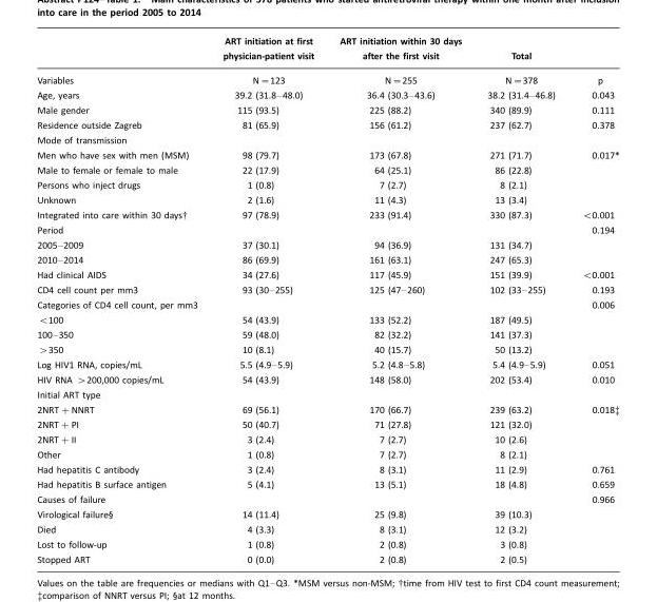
<table><thead><tr><td></td><td>ART initiation at first physician-patient visit</td><td>ART initiation within 30 days after the first visit</td><td>Total</td><td></td></tr></thead><tbody><tr><td>Variables</td><td>N=123</td><td>N=255</td><td>N=378</td><td>p</td></tr><tr><td>Age, years</td><td>39.2 (31.8–48.0)</td><td>36.4 (30.3–43.6)</td><td>38.2 (31.4–46.8)</td><td>0.043</td></tr><tr><td>Male gender</td><td>115 (93.5)</td><td>225 (88.2)</td><td>340 (89.9)</td><td>0.111</td></tr><tr><td>Residence outside Zagreb</td><td>81 (65.9)</td><td>156 (61.2)</td><td>237 (62.7)</td><td>0.378</td></tr><tr><td colspan="5">Mode of transmission</td></tr><tr><td>Men who have sex with men (MSM)</td><td>98 (79.7)</td><td>173 (67.8)</td><td>271 (71.7)</td><td>0.017*</td></tr><tr><td>Male to female or female to male</td><td>22 (17.9)</td><td>64 (25.1)</td><td>86 (22.8)</td><td></td></tr><tr><td>Persons who inject drugs</td><td>1 (0.8)</td><td>7 (2.7)</td><td>8 (2.1)</td><td></td></tr><tr><td>Unknown</td><td>2 (1.6)</td><td>11 (4.3)</td><td>13 (3.4)</td><td></td></tr><tr><td>Integrated into care within 30 days†</td><td>97 (78.9)</td><td>233 (91.4)</td><td>330 (87.3)</td><td>&lt;0.001</td></tr><tr><td>Period</td><td></td><td></td><td></td><td>0.194</td></tr><tr><td>2005–2009</td><td>37 (30.1)</td><td>94 (36.9)</td><td>131 (34.7)</td><td></td></tr><tr><td>2010–2014</td><td>86 (69.9)</td><td>161 (63.1)</td><td>247 (65.3)</td><td></td></tr><tr><td>Had clinical AIDS</td><td>34 (27.6)</td><td>117 (45.9)</td><td>151 (39.9)</td><td>&lt;0.001</td></tr><tr><td>CD4 cell count per mm3</td><td>93 (30–255)</td><td>125 (47–260)</td><td>102 (33–255)</td><td>0.193</td></tr><tr><td>Categories of CD4 cell count, per mm3</td><td></td><td></td><td></td><td>0.006</td></tr><tr><td>&lt;100</td><td>54 (43.9)</td><td>133 (52.2)</td><td>187 (49.5)</td><td></td></tr><tr><td>100–350</td><td>59 (48.0)</td><td>82 (32.2)</td><td>141 (37.3)</td><td></td></tr><tr><td>&gt;350</td><td>10 (8.1)</td><td>40 (15.7)</td><td>50 (13.2)</td><td></td></tr><tr><td>Log HIV1 RNA, copies/mL</td><td>5.5 (4.9–5.9)</td><td>5.2 (4.8–5.8)</td><td>5.4 (4.9–5.9)</td><td>0.051</td></tr><tr><td>HIV RNA &gt;200,000 copies/mL</td><td>54 (43.9)</td><td>148 (58.0)</td><td>202 (53.4)</td><td>0.010</td></tr><tr><td colspan="5">Initial ART type</td></tr><tr><td>2NRT+NNRT</td><td>69 (56.1)</td><td>170 (66.7)</td><td>239 (63.2)</td><td>0.018‡</td></tr><tr><td>2NRT+PI</td><td>50 (40.7)</td><td>71 (27.8)</td><td>121 (32.0)</td><td></td></tr><tr><td>2NRT+II</td><td>3 (2.4)</td><td>7 (2.7)</td><td>10 (2.6)</td><td></td></tr><tr><td>Other</td><td>1 (0.8)</td><td>7 (2.7)</td><td>8 (2.1)</td><td></td></tr><tr><td>Had hepatitis C antibody</td><td>3 (2.4)</td><td>8 (3.1)</td><td>11 (2.9)</td><td>0.761</td></tr><tr><td>Had hepatitis B surface antigen</td><td>5 (4.1)</td><td>13 (5.1)</td><td>18 (4.8)</td><td>0.659</td></tr><tr><td>Causes of failure</td><td></td><td></td><td></td><td>0.966</td></tr><tr><td>Virological failure§</td><td>14 (11.4)</td><td>25 (9.8)</td><td>39 (10.3)</td><td></td></tr><tr><td>Died</td><td>4 (3.3)</td><td>8 (3.1)</td><td>12 (3.2)</td><td></td></tr><tr><td>Lost to follow-up</td><td>1 (0.8)</td><td>2 (0.8)</td><td>3 (0.8)</td><td></td></tr><tr><td>Stopped ART</td><td>0 (0.0)</td><td>2 (0.8)</td><td>2 (0.5)</td><td></td></tr></tbody></table>